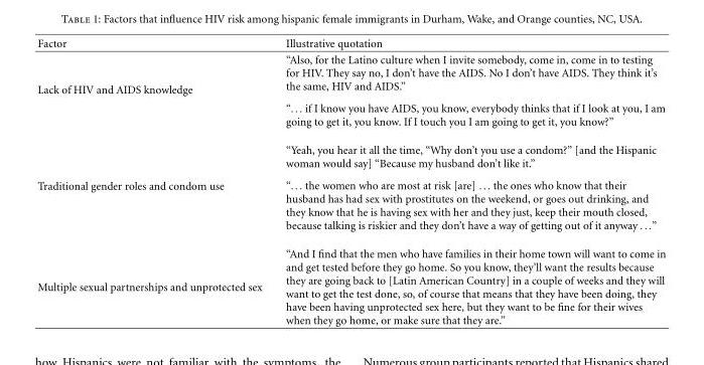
<table><thead><tr><td>Factor</td><td>Illustrative quotation</td></tr></thead><tbody><tr><td rowspan="2">Lack of HIV and AIDS knowledge</td><td>“Also, for the Latino culture when I invite somebody, come in, come in to testing for HIV. They say no, I don’t have the AIDS. No I don’t have AIDS. They think it’s the same, HIV and AIDS.”</td></tr><tr><td>“... if I know you have AIDS, you know, everybody thinks that if I look at you, I am going to get it, you know. If I touch you I am going to get it, you know?”</td></tr><tr><td rowspan="2">Traditional gender roles and condom use</td><td>“Yeah, you hear it all the time, “Why don’t you use a condom?” [and the Hispanic woman would say] “Because my husband don’t like it.”</td></tr><tr><td>“... the women who are most at risk [are] ... the ones who know that their husband has had sex with prostitutes on the weekend, or goes out drinking, and they know that he is having sex with her and they just, keep their mouth closed, because talking is riskier and they don’t have a way of getting out of it anyway ...”</td></tr><tr><td>Multiple sexual partnerships and unprotected sex</td><td>“And I find that the men who have families in their home town will want to come in and get tested before they go home. So you know, they’ll want the results because they are going back to [Latin American Country] in a couple of weeks and they will want to get the test done, so, of course that means that they have been doing, they have been having unprotected sex here, but they want to be fine for their wives when they go home, or make sure that they are.”</td></tr></tbody></table>